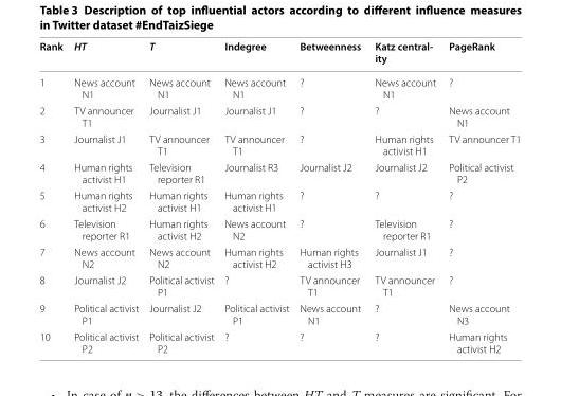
<table><thead><tr><td>Rank</td><td>HT</td><td>T</td><td>Indegree</td><td>Betweenness</td><td>Katz central‑ ity</td><td>PageRank</td></tr></thead><tbody><tr><td>1</td><td>News account N1</td><td>News account N1</td><td>News account N1</td><td>?</td><td>News account N1</td><td>?</td></tr><tr><td>2</td><td>TV announcer T1</td><td>Journalist J1</td><td>Journalist J1</td><td>?</td><td>?</td><td>News account N1</td></tr><tr><td>3</td><td>Journalist J1</td><td>TV announcer T1</td><td>TV announcer T1</td><td>?</td><td>Human rights activist H1</td><td>TV announcer T1</td></tr><tr><td>4</td><td>Human rights activist H1</td><td>Television reporter R1</td><td>Journalist R3</td><td>Journalist J2</td><td>Journalist J2</td><td>Political activist P2</td></tr><tr><td>5</td><td>Human rights activist H2</td><td>Human rights activist H1</td><td>Human rights activist H1</td><td>?</td><td>?</td><td>?</td></tr><tr><td>6</td><td>Television reporter R1</td><td>Human rights activist H2</td><td>News account N2</td><td>?</td><td>Television reporter R1</td><td>?</td></tr><tr><td>7</td><td>News account N2</td><td>News account N2</td><td>Human rights activist H2</td><td>Human rights activist H3</td><td>Journalist J1</td><td>?</td></tr><tr><td>8</td><td>Journalist J2</td><td>Political activist P1</td><td>?</td><td>TV announcer T1</td><td>TV announcer T1</td><td>?</td></tr><tr><td>9</td><td>Political activist P1</td><td>Journalist J2</td><td>Political activist P1</td><td>News account N1</td><td>?</td><td>News account N3</td></tr><tr><td>10</td><td>Political activist P2</td><td>Political activist P2</td><td>?</td><td>?</td><td>?</td><td>Human rights activist H2</td></tr></tbody></table>